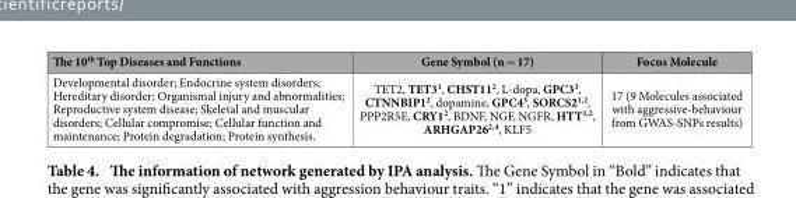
<table><thead><tr><td>The 10<sup>th</sup> Top Diseases and Functions</td><td>Gene Symbol (n = 17)</td><td>Focus Molecule</td></tr></thead><tbody><tr><td>Developmental disorder; Endocrine system disorders; Hereditary disorder; Organismal injury and abnormalities; Reproductive system disease; Skeletal and muscular disorders; Cellular compromise; Cellular function and maintenance; Protein degradation; Protein synthesis.</td><td>TET2, TET3<sup>1</sup>, CHST11<sup>2</sup>, L-dopa, GPC3<sup>3</sup>, CTNNBIP1<sup>2</sup>, dopamine, GPC4<sup>3</sup>, SORCS2<sup>1,2</sup>, PPP2R5E, CRY1<sup>2</sup>, BDNF, NGF, NGFR, HTT<sup>1,2</sup>, ARHGAP26<sup>2,4</sup>, KLF5</td><td>17 (9 Molecules associated with aggressive-behaviour from GWAS-SNPs results)</td></tr></tbody></table>